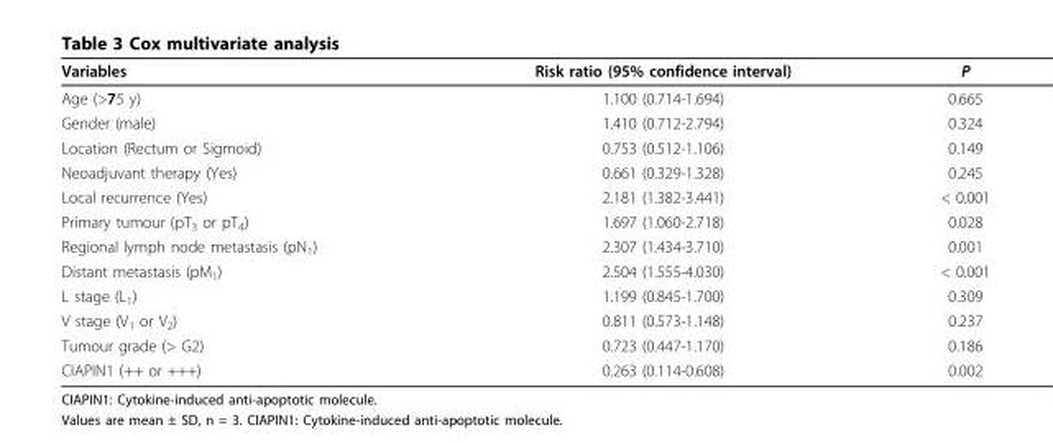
<table><thead><tr><td>Variables</td><td>Risk ratio (95% confidence interval)</td><td>P</td></tr></thead><tbody><tr><td>Age (&gt;75 y)</td><td>1.100 (0.714-1.694)</td><td>0.665</td></tr><tr><td>Gender (male)</td><td>1.410 (0.712-2.794)</td><td>0.324</td></tr><tr><td>Location (Rectum or Sigmoid)</td><td>0.753 (0.512-1.106)</td><td>0.149</td></tr><tr><td>Neoadjuvant therapy (Yes)</td><td>0.661 (0.329-1.328)</td><td>0.245</td></tr><tr><td>Local recurrence (Yes)</td><td>2.181 (1.382-3.441)</td><td>&lt; 0.001</td></tr><tr><td>Primary tumour (pT<sub>3</sub> or pT<sub>4</sub>)</td><td>1.697 (1.060-2.718)</td><td>0.028</td></tr><tr><td>Regional lymph node metastasis (pN<sub>1</sub>)</td><td>2.307 (1.434-3.710)</td><td>0.001</td></tr><tr><td>Distant metastasis (pM<sub>1</sub>)</td><td>2.504 (1.555-4.030)</td><td>&lt; 0.001</td></tr><tr><td>L stage (L<sub>1</sub>)</td><td>1.199 (0.845-1.700)</td><td>0.309</td></tr><tr><td>V stage (V<sub>1</sub> or V<sub>2</sub>)</td><td>0.811 (0.573-1.148)</td><td>0.237</td></tr><tr><td>Tumour grade (&gt; G2)</td><td>0.723 (0.447-1.170)</td><td>0.186</td></tr><tr><td>CIAPIN1 (++ or +++)</td><td>0.263 (0.114-0.608)</td><td>0.002</td></tr></tbody></table>